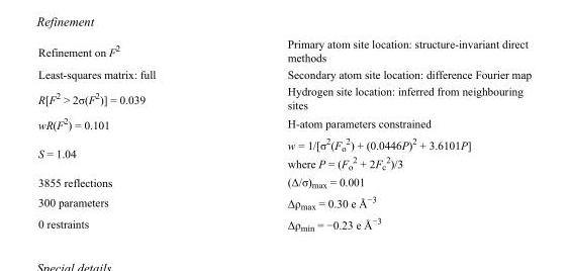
<table><tbody><tr><td>Refinement on F<sup>2</sup></td><td>Primary atom site location: structure-invariant direct methods</td></tr><tr><td>Least-squares matrix: full</td><td>Secondary atom site location: difference Fourier map</td></tr><tr><td>R[F<sup>2</sup> &gt; 2σ(F<sup>2</sup>)] = 0.039</td><td>Hydrogen site location: inferred from neighbouring sites</td></tr><tr><td>wR(F<sup>2</sup>) = 0.101</td><td>H-atom parameters constrained</td></tr><tr><td>S = 1.04</td><td>w = 1/[σ<sup>2</sup>(F<sub>o</sub> <sup>2</sup>) + (0.0446P)<sup>2</sup> + 3.6101P] where P = (F<sub>o</sub> <sup>2</sup> + 2F<sub>c</sub> <sup>2</sup>)/3</td></tr><tr><td>3855 reflections</td><td>(Δ/σ)<sub>max</sub> = 0.001</td></tr><tr><td>300 parameters</td><td>Δρ<sub>max</sub> = 0.30 e Å<sup>−3</sup></td></tr><tr><td>0 restraints</td><td>Δρ<sub>min</sub> = −0.23 e Å<sup>−3</sup></td></tr></tbody></table>